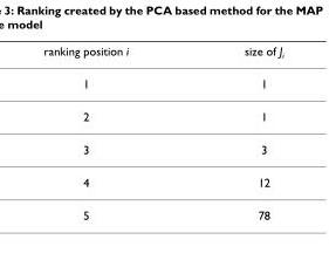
<table><thead><tr><td>ranking position i</td><td>size of J<sub>i</sub></td></tr></thead><tbody><tr><td>1</td><td>1</td></tr><tr><td>2</td><td>1</td></tr><tr><td>3</td><td>3</td></tr><tr><td>4</td><td>12</td></tr><tr><td>5</td><td>78</td></tr></tbody></table>